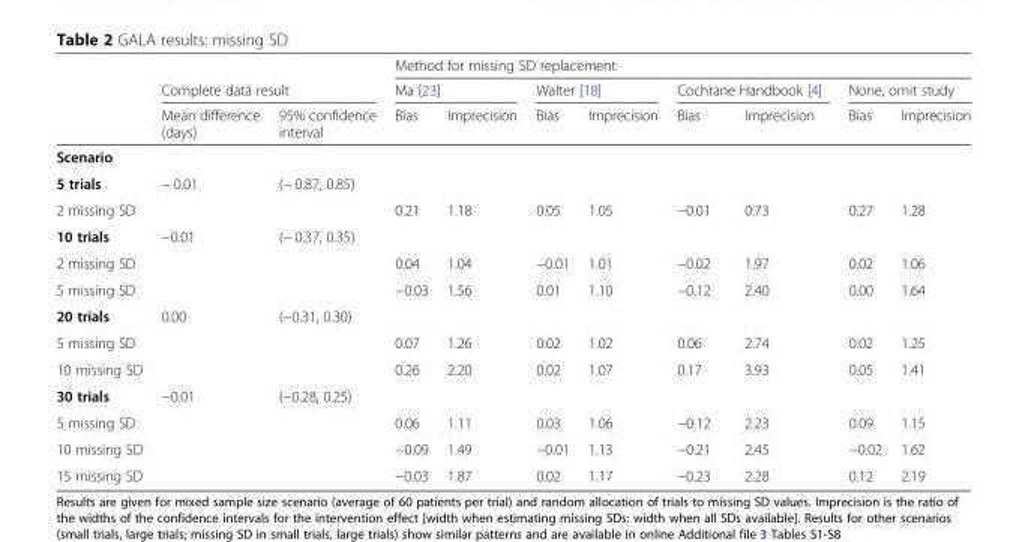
<table><thead><tr><td rowspan="3"></td><td></td><td></td><td colspan="8">Method for missing SD replacement</td></tr><tr><td colspan="2">Complete data result</td><td colspan="2">Ma [23]</td><td colspan="2">Walter [18]</td><td colspan="2">Cochrane Handbook [4]</td><td colspan="2">None, omit study</td></tr><tr><td>Mean difference (days)</td><td>95% confidence interval</td><td>Bias</td><td>Imprecision</td><td>Bias</td><td>Imprecision</td><td>Bias</td><td>Imprecision</td><td>Bias</td><td>Imprecision</td></tr></thead><tbody><tr><td colspan="11">Scenario</td></tr><tr><td>5 trials</td><td>− 0.01</td><td>(− 0.87, 0.85)</td><td></td><td></td><td></td><td></td><td></td><td></td><td></td><td></td></tr><tr><td>2 missing SD</td><td colspan="2"></td><td>0.21</td><td>1.18</td><td>0.05</td><td>1.05</td><td>−0.01</td><td>0.73</td><td>0.27</td><td>1.28</td></tr><tr><td>10 trials</td><td>−0.01</td><td>(− 0.37, 0.35)</td><td></td><td></td><td></td><td></td><td></td><td></td><td></td><td></td></tr><tr><td>2 missing SD</td><td colspan="2"></td><td>0.04</td><td>1.04</td><td>−0.01</td><td>1.01</td><td>−0.02</td><td>1.97</td><td>0.02</td><td>1.06</td></tr><tr><td>5 missing SD</td><td colspan="2"></td><td>−0.03</td><td>1.56</td><td>0.01</td><td>1.10</td><td>−0.12</td><td>2.40</td><td>0.00</td><td>1.64</td></tr><tr><td>20 trials</td><td>0.00</td><td>(−0.31, 0.30)</td><td></td><td></td><td></td><td></td><td></td><td></td><td></td><td></td></tr><tr><td>5 missing SD</td><td colspan="2"></td><td>0.07</td><td>1.26</td><td>0.02</td><td>1.02</td><td>0.06</td><td>2.74</td><td>0.02</td><td>1.25</td></tr><tr><td>10 missing SD</td><td colspan="2"></td><td>0.26</td><td>2.20</td><td>0.02</td><td>1.07</td><td>0.17</td><td>3.93</td><td>0.05</td><td>1.41</td></tr><tr><td>30 trials</td><td>−0.01</td><td>(−0.28, 0.25)</td><td></td><td></td><td></td><td></td><td></td><td></td><td></td><td></td></tr><tr><td>5 missing SD</td><td colspan="2"></td><td>0.06</td><td>1.11</td><td>0.03</td><td>1.06</td><td>−0.12</td><td>2.23</td><td>0.09</td><td>1.15</td></tr><tr><td>10 missing SD</td><td colspan="2"></td><td>−0.09</td><td>1.49</td><td>−0.01</td><td>1.13</td><td>−0.21</td><td>2.45</td><td>−0.02</td><td>1.62</td></tr><tr><td>15 missing SD</td><td colspan="2"></td><td>−0.03</td><td>1.87</td><td>0.02</td><td>1.17</td><td>−0.23</td><td>2.28</td><td>0.12</td><td>2.19</td></tr></tbody></table>